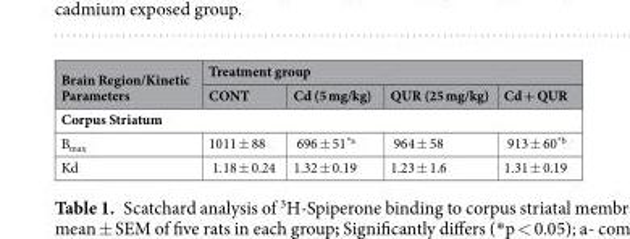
<table><thead><tr><td rowspan="2">Brain Region/Kinetic Parameters</td><td colspan="4">Treatment group</td></tr><tr><td>CONT</td><td>Cd (5 mg/kg)</td><td>QUR (25 mg/kg)</td><td>Cd + QUR</td></tr></thead><tbody><tr><td colspan="5">Corpus Striatum</td></tr><tr><td>B<sub>max</sub></td><td>1011 ± 88</td><td>696 ± 51<sup>*a</sup></td><td>964 ± 58</td><td>913 ± 60<sup>*b</sup></td></tr><tr><td>Kd</td><td>1.18 ± 0.24</td><td>1.32 ± 0.19</td><td>1.23 ± 1.6</td><td>1.31 ± 0.19</td></tr></tbody></table>